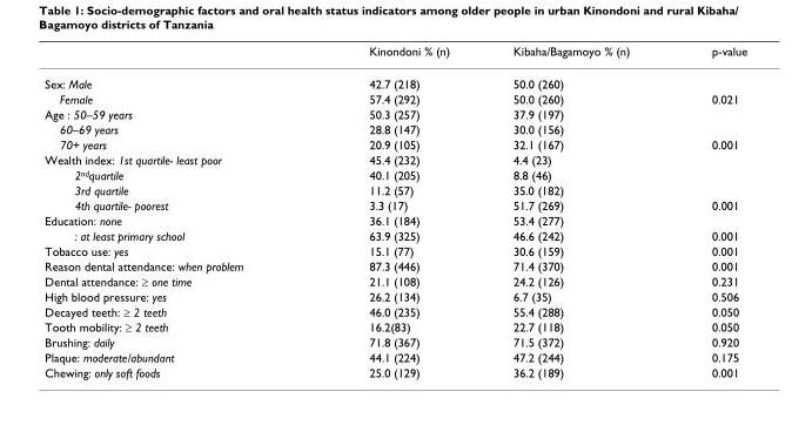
<table><thead><tr><td></td><td>Kinondoni % (n)</td><td>Kibaha/Bagamoyo % (n)</td><td>p-value</td></tr></thead><tbody><tr><td>Sex: Male</td><td>42.7 (218)</td><td>50.0 (260)</td><td></td></tr><tr><td>Female</td><td>57.4 (292)</td><td>50.0 (260)</td><td>0.021</td></tr><tr><td>Age : 50–59 years</td><td>50.3 (257)</td><td>37.9 (197)</td><td></td></tr><tr><td>60–69 years</td><td>28.8 (147)</td><td>30.0 (156)</td><td></td></tr><tr><td>70+ years</td><td>20.9 (105)</td><td>32.1 (167)</td><td>0.001</td></tr><tr><td>Wealth index: 1st quartile- least poor</td><td>45.4 (232)</td><td>4.4 (23)</td><td></td></tr><tr><td>2<sup>nd</sup>quartile</td><td>40.1 (205)</td><td>8.8 (46)</td><td></td></tr><tr><td>3rd quartile</td><td>11.2 (57)</td><td>35.0 (182)</td><td></td></tr><tr><td>4th quartile- poorest</td><td>3.3 (17)</td><td>51.7 (269)</td><td>0.001</td></tr><tr><td>Education: none</td><td>36.1 (184)</td><td>53.4 (277)</td><td></td></tr><tr><td>: at least primary school</td><td>63.9 (325)</td><td>46.6 (242)</td><td>0.001</td></tr><tr><td>Tobacco use: yes</td><td>15.1 (77)</td><td>30.6 (159)</td><td>0.001</td></tr><tr><td>Reason dental attendance: when problem</td><td>87.3 (446)</td><td>71.4 (370)</td><td>0.001</td></tr><tr><td>Dental attendance: ≥ one time</td><td>21.1 (108)</td><td>24.2 (126)</td><td>0.231</td></tr><tr><td>High blood pressure: yes</td><td>26.2 (134)</td><td>6.7 (35)</td><td>0.506</td></tr><tr><td>Decayed teeth: ≥ 2 teeth</td><td>46.0 (235)</td><td>55.4 (288)</td><td>0.050</td></tr><tr><td>Tooth mobility: ≥ 2 teeth</td><td>16.2(83)</td><td>22.7 (118)</td><td>0.050</td></tr><tr><td>Brushing: daily</td><td>71.8 (367)</td><td>71.5 (372)</td><td>0.920</td></tr><tr><td>Plaque: moderate/abundant</td><td>44.1 (224)</td><td>47.2 (244)</td><td>0.175</td></tr><tr><td>Chewing: only soft foods</td><td>25.0 (129)</td><td>36.2 (189)</td><td>0.001</td></tr></tbody></table>